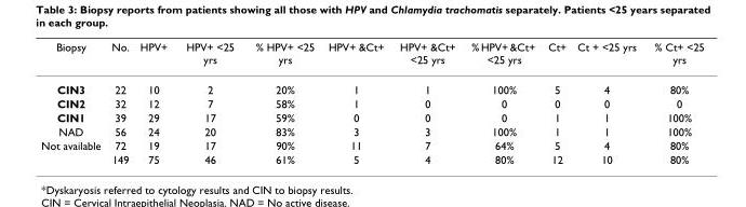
<table><thead><tr><td>Biopsy</td><td>No.</td><td>HPV+</td><td>HPV+ &lt;25 yrs</td><td>% HPV+ &lt;25 yrs</td><td>HPV+ &amp;Ct+</td><td>HPV+ &amp;Ct+ &lt;25 yrs</td><td>% HPV+ &amp;Ct+ &lt;25 yrs</td><td>Ct+</td><td>Ct + &lt;25 yrs</td><td>% Ct+ &lt;25 yrs</td></tr></thead><tbody><tr><td>CIN3</td><td>22</td><td>10</td><td>2</td><td>20%</td><td>1</td><td>1</td><td>100%</td><td>5</td><td>4</td><td>80%</td></tr><tr><td>CIN2</td><td>32</td><td>12</td><td>7</td><td>58%</td><td>1</td><td>0</td><td>0</td><td>0</td><td>0</td><td>0</td></tr><tr><td>CIN1</td><td>39</td><td>29</td><td>17</td><td>59%</td><td>0</td><td>0</td><td>0</td><td>1</td><td>1</td><td>100%</td></tr><tr><td>NAD</td><td>56</td><td>24</td><td>20</td><td>83%</td><td>3</td><td>3</td><td>100%</td><td>1</td><td>1</td><td>100%</td></tr><tr><td rowspan="2">Not available</td><td>72</td><td>19</td><td>17</td><td>90%</td><td>11</td><td>7</td><td>64%</td><td>5</td><td>4</td><td>80%</td></tr><tr><td>149</td><td>75</td><td>46</td><td>61%</td><td>5</td><td>4</td><td>80%</td><td>12</td><td>10</td><td>80%</td></tr></tbody></table>